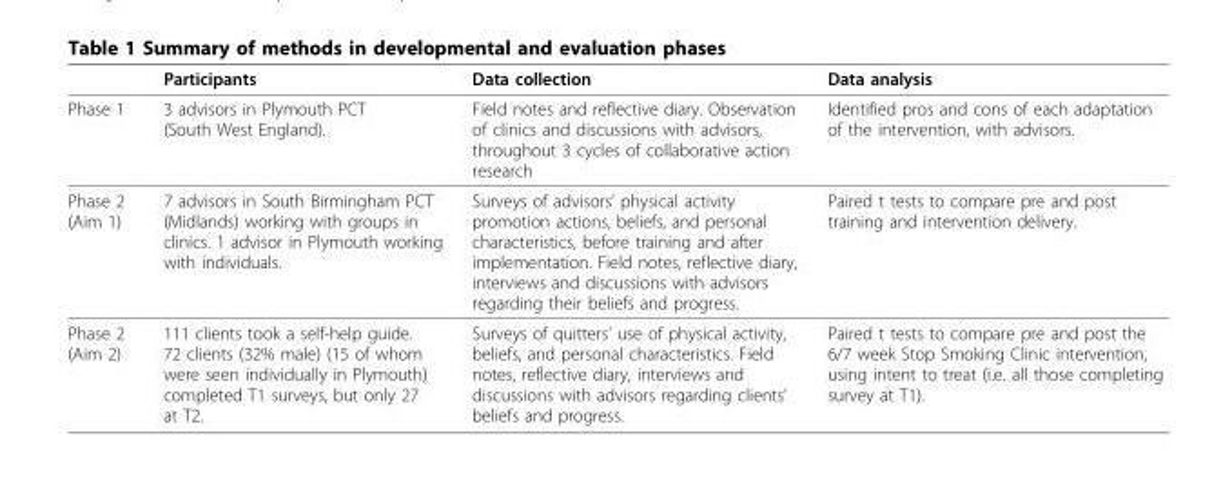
<table><thead><tr><td></td><td>Participants</td><td>Data collection</td><td>Data analysis</td></tr></thead><tbody><tr><td>Phase 1</td><td>3 advisors in Plymouth PCT (South West England).</td><td>Field notes and reflective diary. Observation of clinics and discussions with advisors, throughout 3 cycles of collaborative action research</td><td>Identified pros and cons of each adaptation of the intervention, with advisors.</td></tr><tr><td>Phase 2 (Aim 1)</td><td>7 advisors in South Birmingham PCT (Midlands) working with groups in clinics. 1 advisor in Plymouth working with individuals.</td><td>Surveys of advisors’ physical activity promotion actions, beliefs, and personal characteristics, before training and after implementation. Field notes, reflective diary, interviews and discussions with advisors regarding their beliefs and progress.</td><td>Paired t tests to compare pre and post training and intervention delivery.</td></tr><tr><td>Phase 2 (Aim 2)</td><td>111 clients took a self-help guide. 72 clients (32% male) (15 of whom were seen individually in Plymouth) completed T1 surveys, but only 27 at T2.</td><td>Surveys of quitters’ use of physical activity, beliefs, and personal characteristics. Field notes, reflective diary, interviews and discussions with advisors regarding clients’ beliefs and progress.</td><td>Paired t tests to compare pre and post the 6/7 week Stop Smoking Clinic intervention, using intent to treat (i.e. all those completing survey at T1).</td></tr></tbody></table>